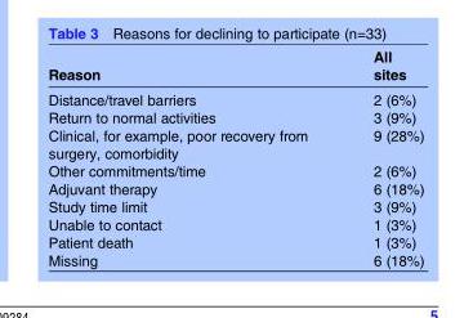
<table><thead><tr><td>Reason</td><td>All sites</td></tr></thead><tbody><tr><td>Distance/travel barriers</td><td>2 (6%)</td></tr><tr><td>Return to normal activities</td><td>3 (9%)</td></tr><tr><td>Clinical, for example, poor recovery from surgery, comorbidity</td><td>9 (28%)</td></tr><tr><td>Other commitments/time</td><td>2 (6%)</td></tr><tr><td>Adjuvant therapy</td><td>6 (18%)</td></tr><tr><td>Study time limit</td><td>3 (9%)</td></tr><tr><td>Unable to contact</td><td>1 (3%)</td></tr><tr><td>Patient death</td><td>1 (3%)</td></tr><tr><td>Missing</td><td>6 (18%)</td></tr></tbody></table>